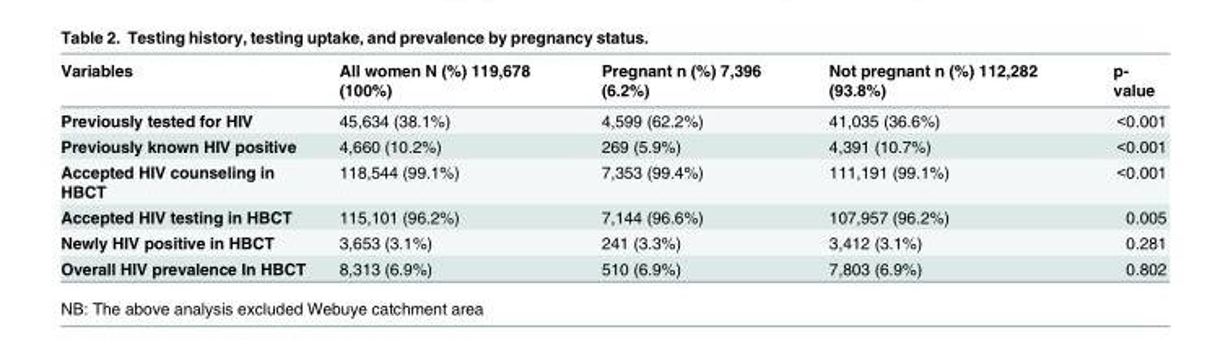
<table><thead><tr><td>Variables</td><td>All women N (%) 119,678 (100%)</td><td>Pregnant n (%) 7,396 (6.2%)</td><td>Not pregnant n (%) 112,282 (93.8%)</td><td>p- value</td></tr></thead><tbody><tr><td>Previously tested for HIV</td><td>45,634 (38.1%)</td><td>4,599 (62.2%)</td><td>41,035 (36.6%)</td><td>&lt;0.001</td></tr><tr><td>Previously known HIV positive</td><td>4,660 (10.2%)</td><td>269 (5.9%)</td><td>4,391 (10.7%)</td><td>&lt;0.001</td></tr><tr><td>Accepted HIV counseling in HBCT</td><td>118,544 (99.1%)</td><td>7,353 (99.4%)</td><td>111,191 (99.1%)</td><td>&lt;0.001</td></tr><tr><td>Accepted HIV testing in HBCT</td><td>115,101 (96.2%)</td><td>7,144 (96.6%)</td><td>107,957 (96.2%)</td><td>0.005</td></tr><tr><td>Newly HIV positive in HBCT</td><td>3,653 (3.1%)</td><td>241 (3.3%)</td><td>3,412 (3.1%)</td><td>0.281</td></tr><tr><td>Overall HIV prevalence In HBCT</td><td>8,313 (6.9%)</td><td>510 (6.9%)</td><td>7,803 (6.9%)</td><td>0.802</td></tr></tbody></table>